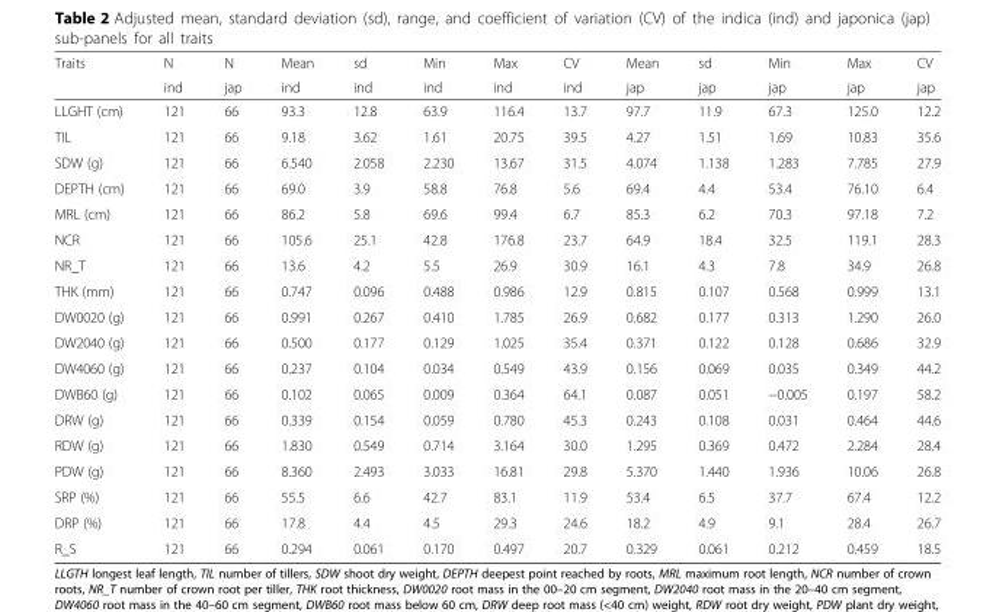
<table><thead><tr><td rowspan="2">Traits</td><td rowspan="2">N ind</td><td rowspan="2">N jap</td><td rowspan="2">Mean ind</td><td rowspan="2">sd ind</td><td rowspan="2">Min ind</td><td rowspan="2">Max ind</td><td rowspan="2">CV ind</td><td rowspan="2">Mean jap</td><td rowspan="2">sd jap</td><td rowspan="2">Min jap</td><td rowspan="2">Max jap</td><td rowspan="2">CV jap</td></tr><tr></tr></thead><tbody><tr><td>LLGHT (cm)</td><td>121</td><td>66</td><td>93.3</td><td>12.8</td><td>63.9</td><td>116.4</td><td>13.7</td><td>97.7</td><td>11.9</td><td>67.3</td><td>125.0</td><td>12.2</td></tr><tr><td>TIL</td><td>121</td><td>66</td><td>9.18</td><td>3.62</td><td>1.61</td><td>20.75</td><td>39.5</td><td>4.27</td><td>1.51</td><td>1.69</td><td>10.83</td><td>35.6</td></tr><tr><td>SDW (g)</td><td>121</td><td>66</td><td>6.540</td><td>2.058</td><td>2.230</td><td>13.67</td><td>31.5</td><td>4.074</td><td>1.138</td><td>1.283</td><td>7.785</td><td>27.9</td></tr><tr><td>DEPTH (cm)</td><td>121</td><td>66</td><td>69.0</td><td>3.9</td><td>58.8</td><td>76.8</td><td>5.6</td><td>69.4</td><td>4.4</td><td>53.4</td><td>76.10</td><td>6.4</td></tr><tr><td>MRL (cm)</td><td>121</td><td>66</td><td>86.2</td><td>5.8</td><td>69.6</td><td>99.4</td><td>6.7</td><td>85.3</td><td>6.2</td><td>70.3</td><td>97.18</td><td>7.2</td></tr><tr><td>NCR</td><td>121</td><td>66</td><td>105.6</td><td>25.1</td><td>42.8</td><td>176.8</td><td>23.7</td><td>64.9</td><td>18.4</td><td>32.5</td><td>119.1</td><td>28.3</td></tr><tr><td>NR_T</td><td>121</td><td>66</td><td>13.6</td><td>4.2</td><td>5.5</td><td>26.9</td><td>30.9</td><td>16.1</td><td>4.3</td><td>7.8</td><td>34.9</td><td>26.8</td></tr><tr><td>THK (mm)</td><td>121</td><td>66</td><td>0.747</td><td>0.096</td><td>0.488</td><td>0.986</td><td>12.9</td><td>0.815</td><td>0.107</td><td>0.568</td><td>0.999</td><td>13.1</td></tr><tr><td>DW0020 (g)</td><td>121</td><td>66</td><td>0.991</td><td>0.267</td><td>0.410</td><td>1.785</td><td>26.9</td><td>0.682</td><td>0.177</td><td>0.313</td><td>1.290</td><td>26.0</td></tr><tr><td>DW2040 (g)</td><td>121</td><td>66</td><td>0.500</td><td>0.177</td><td>0.129</td><td>1.025</td><td>35.4</td><td>0.371</td><td>0.122</td><td>0.128</td><td>0.686</td><td>32.9</td></tr><tr><td>DW4060 (g)</td><td>121</td><td>66</td><td>0.237</td><td>0.104</td><td>0.034</td><td>0.549</td><td>43.9</td><td>0.156</td><td>0.069</td><td>0.035</td><td>0.349</td><td>44.2</td></tr><tr><td>DWB60 (g)</td><td>121</td><td>66</td><td>0.102</td><td>0.065</td><td>0.009</td><td>0.364</td><td>64.1</td><td>0.087</td><td>0.051</td><td>−0.005</td><td>0.197</td><td>58.2</td></tr><tr><td>DRW (g)</td><td>121</td><td>66</td><td>0.339</td><td>0.154</td><td>0.059</td><td>0.780</td><td>45.3</td><td>0.243</td><td>0.108</td><td>0.031</td><td>0.464</td><td>44.6</td></tr><tr><td>RDW (g)</td><td>121</td><td>66</td><td>1.830</td><td>0.549</td><td>0.714</td><td>3.164</td><td>30.0</td><td>1.295</td><td>0.369</td><td>0.472</td><td>2.284</td><td>28.4</td></tr><tr><td>PDW (g)</td><td>121</td><td>66</td><td>8.360</td><td>2.493</td><td>3.033</td><td>16.81</td><td>29.8</td><td>5.370</td><td>1.440</td><td>1.936</td><td>10.06</td><td>26.8</td></tr><tr><td>SRP (%)</td><td>121</td><td>66</td><td>55.5</td><td>6.6</td><td>42.7</td><td>83.1</td><td>11.9</td><td>53.4</td><td>6.5</td><td>37.7</td><td>67.4</td><td>12.2</td></tr><tr><td>DRP (%)</td><td>121</td><td>66</td><td>17.8</td><td>4.4</td><td>4.5</td><td>29.3</td><td>24.6</td><td>18.2</td><td>4.9</td><td>9.1</td><td>28.4</td><td>26.7</td></tr><tr><td>R_S</td><td>121</td><td>66</td><td>0.294</td><td>0.061</td><td>0.170</td><td>0.497</td><td>20.7</td><td>0.329</td><td>0.061</td><td>0.212</td><td>0.459</td><td>18.5</td></tr></tbody></table>